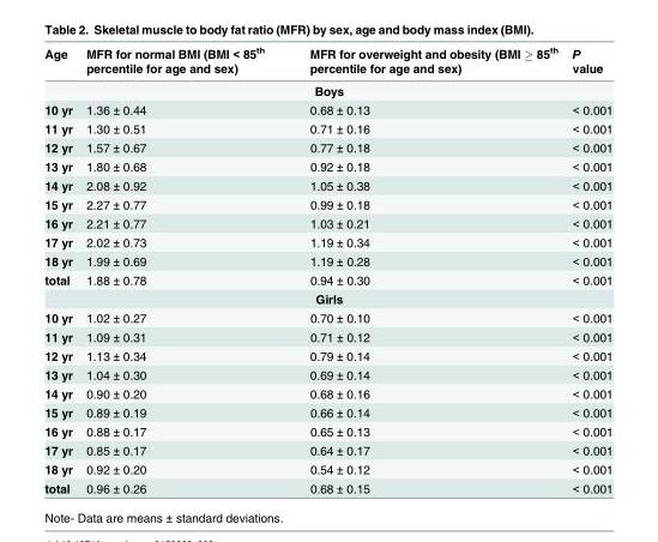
<table><thead><tr><td>Age</td><td>MFR for normal BMI (BMI &lt; 85<sup>th</sup> percentile for age and sex)</td><td>MFR for overweight and obesity (BMI ≥ 85<sup>th</sup> percentile for age and sex)</td><td>P value</td></tr></thead><tbody><tr><td colspan="4">Boys</td></tr><tr><td>10 yr</td><td>1.36 ± 0.44</td><td>0.68 ± 0.13</td><td>&lt; 0.001</td></tr><tr><td>11 yr</td><td>1.30 ± 0.51</td><td>0.71 ± 0.16</td><td>&lt; 0.001</td></tr><tr><td>12 yr</td><td>1.57 ± 0.67</td><td>0.77 ± 0.18</td><td>&lt; 0.001</td></tr><tr><td>13 yr</td><td>1.80 ± 0.68</td><td>0.92 ± 0.18</td><td>&lt; 0.001</td></tr><tr><td>14 yr</td><td>2.08 ± 0.92</td><td>1.05 ± 0.38</td><td>&lt; 0.001</td></tr><tr><td>15 yr</td><td>2.27 ± 0.77</td><td>0.99 ± 0.18</td><td>&lt; 0.001</td></tr><tr><td>16 yr</td><td>2.21 ± 0.77</td><td>1.03 ± 0.21</td><td>&lt; 0.001</td></tr><tr><td>17 yr</td><td>2.02 ± 0.73</td><td>1.19 ± 0.34</td><td>&lt; 0.001</td></tr><tr><td>18 yr</td><td>1.99 ± 0.69</td><td>1.19 ± 0.28</td><td>&lt; 0.001</td></tr><tr><td>total</td><td>1.88 ± 0.78</td><td>0.94 ± 0.30</td><td>&lt; 0.001</td></tr><tr><td colspan="4">Girls</td></tr><tr><td>10 yr</td><td>1.02 ± 0.27</td><td>0.70 ± 0.10</td><td>&lt; 0.001</td></tr><tr><td>11 yr</td><td>1.09 ± 0.31</td><td>0.71 ± 0.12</td><td>&lt; 0.001</td></tr><tr><td>12 yr</td><td>1.13 ± 0.34</td><td>0.79 ± 0.14</td><td>&lt; 0.001</td></tr><tr><td>13 yr</td><td>1.04 ± 0.30</td><td>0.69 ± 0.14</td><td>&lt; 0.001</td></tr><tr><td>14 yr</td><td>0.90 ± 0.20</td><td>0.68 ± 0.16</td><td>&lt; 0.001</td></tr><tr><td>15 yr</td><td>0.89 ± 0.19</td><td>0.66 ± 0.14</td><td>&lt; 0.001</td></tr><tr><td>16 yr</td><td>0.88 ± 0.17</td><td>0.65 ± 0.13</td><td>&lt; 0.001</td></tr><tr><td>17 yr</td><td>0.85 ± 0.17</td><td>0.64 ± 0.17</td><td>&lt; 0.001</td></tr><tr><td>18 yr</td><td>0.92 ± 0.20</td><td>0.54 ± 0.12</td><td>&lt; 0.001</td></tr><tr><td>total</td><td>0.96 ± 0.26</td><td>0.68 ± 0.15</td><td>&lt; 0.001</td></tr></tbody></table>